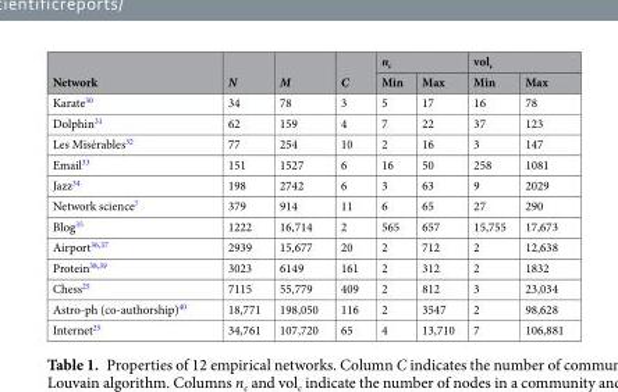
<table><thead><tr><td rowspan="2">Network</td><td rowspan="2">N</td><td rowspan="2">M</td><td rowspan="2">C</td><td colspan="2">n<sub>c</sub></td><td colspan="2">vol<sub>c</sub></td></tr><tr><td>Min</td><td>Max</td><td>Min</td><td>Max</td></tr></thead><tbody><tr><td>Karate<sup>30</sup></td><td>34</td><td>78</td><td>3</td><td>5</td><td>17</td><td>16</td><td>78</td></tr><tr><td>Dolphin<sup>31</sup></td><td>62</td><td>159</td><td>4</td><td>7</td><td>22</td><td>37</td><td>123</td></tr><tr><td>Les Misérables<sup>32</sup></td><td>77</td><td>254</td><td>10</td><td>2</td><td>16</td><td>3</td><td>147</td></tr><tr><td>Email<sup>33</sup></td><td>151</td><td>1527</td><td>6</td><td>16</td><td>50</td><td>258</td><td>1081</td></tr><tr><td>Jazz<sup>34</sup></td><td>198</td><td>2742</td><td>6</td><td>3</td><td>63</td><td>9</td><td>2029</td></tr><tr><td>Network science<sup>7</sup></td><td>379</td><td>914</td><td>11</td><td>6</td><td>65</td><td>27</td><td>290</td></tr><tr><td>Blog<sup>35</sup></td><td>1222</td><td>16,714</td><td>2</td><td>565</td><td>657</td><td>15,755</td><td>17,673</td></tr><tr><td>Airport<sup>36,37</sup></td><td>2939</td><td>15,677</td><td>20</td><td>2</td><td>712</td><td>2</td><td>12,638</td></tr><tr><td>Protein<sup>38,39</sup></td><td>3023</td><td>6149</td><td>161</td><td>2</td><td>312</td><td>2</td><td>1832</td></tr><tr><td>Chess<sup>25</sup></td><td>7115</td><td>55,779</td><td>409</td><td>2</td><td>812</td><td>3</td><td>23,034</td></tr><tr><td>Astro-ph (co-authorship)<sup>40</sup></td><td>18,771</td><td>198,050</td><td>116</td><td>2</td><td>3547</td><td>2</td><td>98,628</td></tr><tr><td>Internet<sup>25</sup></td><td>34,761</td><td>107,720</td><td>65</td><td>4</td><td>13,710</td><td>7</td><td>106,881</td></tr></tbody></table>